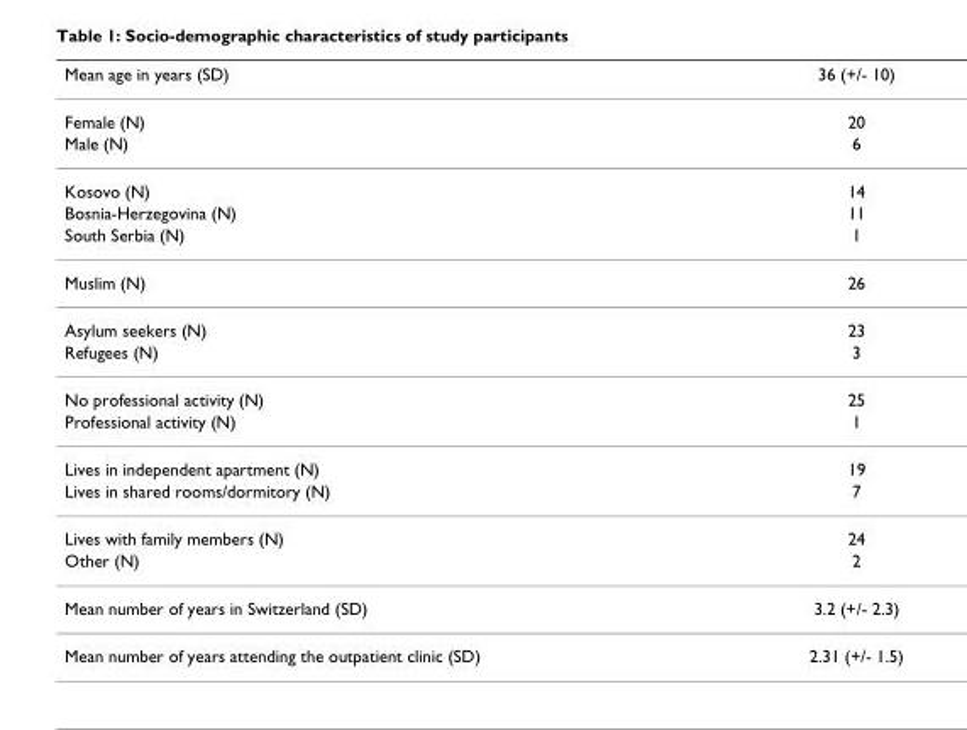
<table><thead><tr><td>Mean age in years (SD)</td><td>36 (+/- 10)</td></tr></thead><tbody><tr><td>Female (N)</td><td>20</td></tr><tr><td>Male (N)</td><td>6</td></tr><tr><td>Kosovo (N)</td><td>14</td></tr><tr><td>Bosnia-Herzegovina (N)</td><td>11</td></tr><tr><td>South Serbia (N)</td><td>1</td></tr><tr><td>Muslim (N)</td><td>26</td></tr><tr><td>Asylum seekers (N)</td><td>23</td></tr><tr><td>Refugees (N)</td><td>3</td></tr><tr><td>No professional activity (N)</td><td>25</td></tr><tr><td>Professional activity (N)</td><td>1</td></tr><tr><td>Lives in independent apartment (N)</td><td>19</td></tr><tr><td>Lives in shared rooms/dormitory (N)</td><td>7</td></tr><tr><td>Lives with family members (N)</td><td>24</td></tr><tr><td>Other (N)</td><td>2</td></tr><tr><td>Mean number of years in Switzerland (SD)</td><td>3.2 (+/- 2.3)</td></tr><tr><td>Mean number of years attending the outpatient clinic (SD)</td><td>2.31 (+/- 1.5)</td></tr></tbody></table>